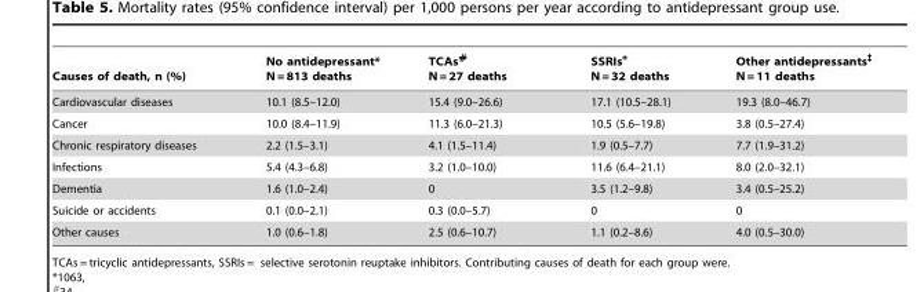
<table><thead><tr><td>Causes of death, n (%)</td><td>No antidepressant* N = 813 deaths</td><td>TCAs# N = 27 deaths</td><td>SSRIs<sup>+</sup> N = 32 deaths</td><td>Other antidepressants‡ N = 11 deaths</td></tr></thead><tbody><tr><td>Cardiovascular diseases</td><td>10.1 (8.5–12.0)</td><td>15.4 (9.0–26.6)</td><td>17.1 (10.5–28.1)</td><td>19.3 (8.0–46.7)</td></tr><tr><td>Cancer</td><td>10.0 (8.4–11.9)</td><td>11.3 (6.0–21.3)</td><td>10.5 (5.6–19.8)</td><td>3.8 (0.5–27.4)</td></tr><tr><td>Chronic respiratory diseases</td><td>2.2 (1.5–3.1)</td><td>4.1 (1.5–11.4)</td><td>1.9 (0.5–7.7)</td><td>7.7 (1.9–31.2)</td></tr><tr><td>Infections</td><td>5.4 (4.3–6.8)</td><td>3.2 (1.0–10.0)</td><td>11.6 (6.4–21.1)</td><td>8.0 (2.0–32.1)</td></tr><tr><td>Dementia</td><td>1.6 (1.0–2.4)</td><td>0</td><td>3.5 (1.2–9.8)</td><td>3.4 (0.5–25.2)</td></tr><tr><td>Suicide or accidents</td><td>0.1 (0.0–2.1)</td><td>0.3 (0.0–5.7)</td><td>0</td><td>0</td></tr><tr><td>Other causes</td><td>1.0 (0.6–1.8)</td><td>2.5 (0.6–10.7)</td><td>1.1 (0.2–8.6)</td><td>4.0 (0.5–30.0)</td></tr></tbody></table>